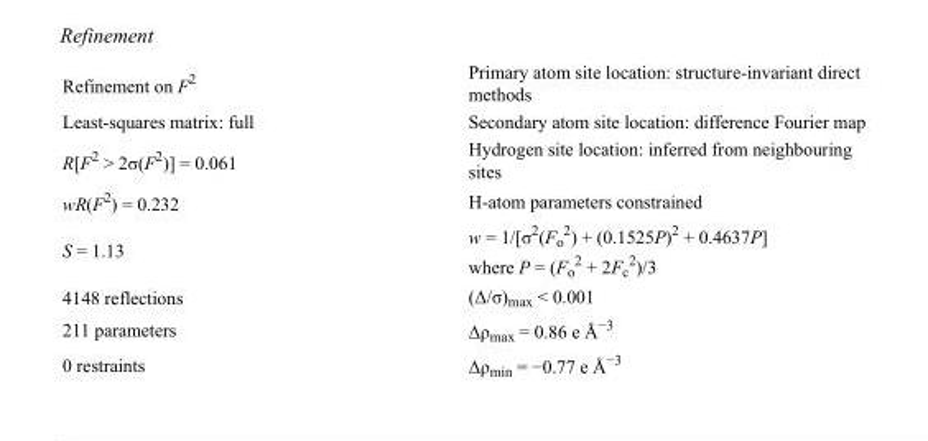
<table><tbody><tr><td>Refinement on F<sup>2</sup></td><td>Primary atom site location: structure-invariant direct methods</td></tr><tr><td>Least-squares matrix: full</td><td>Secondary atom site location: difference Fourier map</td></tr><tr><td>R[F<sup>2</sup> &gt; 2σ(F<sup>2</sup>)] = 0.061</td><td>Hydrogen site location: inferred from neighbouring sites</td></tr><tr><td>wR(F<sup>2</sup>) = 0.232</td><td>H-atom parameters constrained</td></tr><tr><td>S = 1.13</td><td>w = 1/[σ<sup>2</sup>(F<sub>o</sub> <sup>2</sup>) + (0.1525P)<sup>2</sup> + 0.4637P] where P = (F<sub>o</sub> <sup>2</sup> + 2F<sub>c</sub> <sup>2</sup>)/3</td></tr><tr><td>4148 reflections</td><td>(Δ/σ)<sub>max</sub> &lt; 0.001</td></tr><tr><td>211 parameters</td><td>Δρ<sub>max</sub> = 0.86 e Å<sup>−3</sup></td></tr><tr><td>0 restraints</td><td>Δρ<sub>min</sub> = −0.77 e Å<sup>−3</sup></td></tr></tbody></table>